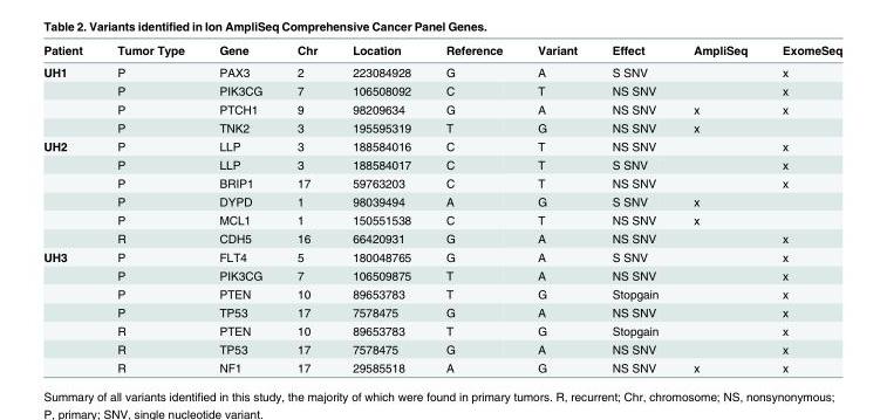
<table><thead><tr><td>Patient</td><td>Tumor Type</td><td>Gene</td><td>Chr</td><td>Location</td><td>Reference</td><td>Variant</td><td>Effect</td><td>AmpliSeq</td><td>ExomeSeq</td></tr></thead><tbody><tr><td rowspan="4">UH1</td><td>P</td><td>PAX3</td><td>2</td><td>223084928</td><td>G</td><td>A</td><td>S SNV</td><td></td><td>x</td></tr><tr><td>P</td><td>PIK3CG</td><td>7</td><td>106508092</td><td>C</td><td>T</td><td>NS SNV</td><td></td><td>x</td></tr><tr><td>P</td><td>PTCH1</td><td>9</td><td>98209634</td><td>G</td><td>A</td><td>NS SNV</td><td>x</td><td>x</td></tr><tr><td>P</td><td>TNK2</td><td>3</td><td>195595319</td><td>T</td><td>G</td><td>NS SNV</td><td>x</td><td></td></tr><tr><td rowspan="6">UH2</td><td>P</td><td>LLP</td><td>3</td><td>188584016</td><td>C</td><td>T</td><td>NS SNV</td><td></td><td>x</td></tr><tr><td>P</td><td>LLP</td><td>3</td><td>188584017</td><td>C</td><td>T</td><td>S SNV</td><td></td><td>x</td></tr><tr><td>P</td><td>BRIP1</td><td>17</td><td>59763203</td><td>C</td><td>T</td><td>NS SNV</td><td></td><td>x</td></tr><tr><td>P</td><td>DYPD</td><td>1</td><td>98039494</td><td>A</td><td>G</td><td>S SNV</td><td>x</td><td></td></tr><tr><td>P</td><td>MCL1</td><td>1</td><td>150551538</td><td>C</td><td>T</td><td>NS SNV</td><td>x</td><td></td></tr><tr><td>R</td><td>CDH5</td><td>16</td><td>66420931</td><td>G</td><td>A</td><td>NS SNV</td><td></td><td>x</td></tr><tr><td rowspan="7">UH3</td><td>P</td><td>FLT4</td><td>5</td><td>180048765</td><td>G</td><td>A</td><td>S SNV</td><td></td><td>x</td></tr><tr><td>P</td><td>PIK3CG</td><td>7</td><td>106509875</td><td>T</td><td>A</td><td>NS SNV</td><td></td><td>x</td></tr><tr><td>P</td><td>PTEN</td><td>10</td><td>89653783</td><td>T</td><td>G</td><td>Stopgain</td><td></td><td>x</td></tr><tr><td>P</td><td>TP53</td><td>17</td><td>7578475</td><td>G</td><td>A</td><td>NS SNV</td><td></td><td>x</td></tr><tr><td>R</td><td>PTEN</td><td>10</td><td>89653783</td><td>T</td><td>G</td><td>Stopgain</td><td></td><td>x</td></tr><tr><td>R</td><td>TP53</td><td>17</td><td>7578475</td><td>G</td><td>A</td><td>NS SNV</td><td></td><td>x</td></tr><tr><td>R</td><td>NF1</td><td>17</td><td>29585518</td><td>A</td><td>G</td><td>NS SNV</td><td>x</td><td>x</td></tr></tbody></table>